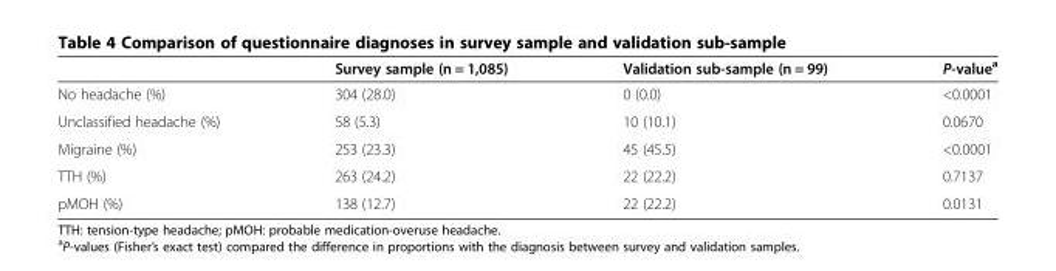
<table><thead><tr><td></td><td>Survey sample (n = 1,085)</td><td>Validation sub-sample (n = 99)</td><td>P-value<sup>a</sup></td></tr></thead><tbody><tr><td>No headache (%)</td><td>304 (28.0)</td><td>0 (0.0)</td><td>&lt;0.0001</td></tr><tr><td>Unclassified headache (%)</td><td>58 (5.3)</td><td>10 (10.1)</td><td>0.0670</td></tr><tr><td>Migraine (%)</td><td>253 (23.3)</td><td>45 (45.5)</td><td>&lt;0.0001</td></tr><tr><td>TTH (%)</td><td>263 (24.2)</td><td>22 (22.2)</td><td>0.7137</td></tr><tr><td>pMOH (%)</td><td>138 (12.7)</td><td>22 (22.2)</td><td>0.0131</td></tr></tbody></table>